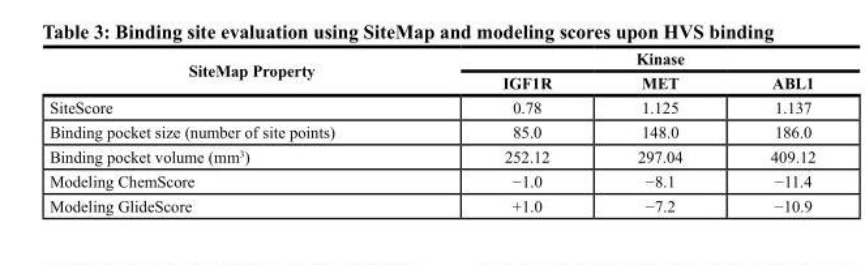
<table><thead><tr><td rowspan="2">SiteMap Property</td><td colspan="3">Kinase</td></tr><tr><td>IGF1R</td><td>MET</td><td>ABL1</td></tr></thead><tbody><tr><td>SiteScore</td><td>0.78</td><td>1.125</td><td>1.137</td></tr><tr><td>Binding pocket size (number of site points)</td><td>85.0</td><td>148.0</td><td>186.0</td></tr><tr><td>Binding pocket volume (mm<sup>3</sup>)</td><td>252.12</td><td>297.04</td><td>409.12</td></tr><tr><td>Modeling ChemScore</td><td>−1.0</td><td>−8.1</td><td>−11.4</td></tr><tr><td>Modeling GlideScore</td><td>+1.0</td><td>−7.2</td><td>−10.9</td></tr></tbody></table>